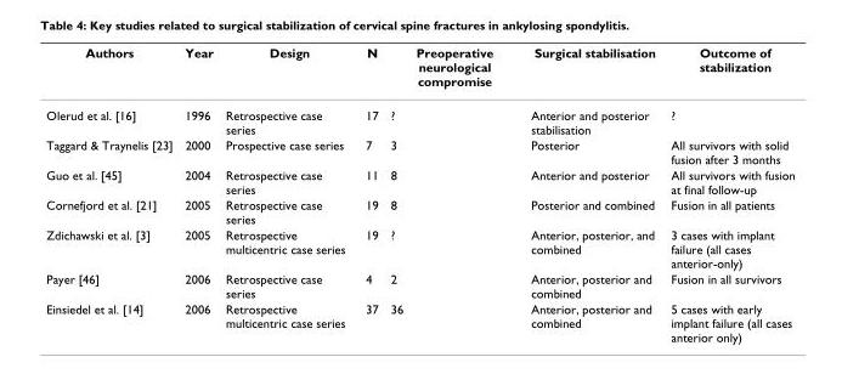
<table><thead><tr><td>Authors</td><td>Year</td><td>Design</td><td>N</td><td>Preoperative neurological compromise</td><td>Surgical stabilisation</td><td>Outcome of stabilization</td></tr></thead><tbody><tr><td>Olerud et al. [16]</td><td>1996</td><td>Retrospective case series</td><td>17</td><td>?</td><td>Anterior and posterior stabilisation</td><td>?</td></tr><tr><td>Taggard &amp; Traynelis [23]</td><td>2000</td><td>Prospective case series</td><td>7</td><td>3</td><td>Posterior</td><td>All survivors with solid fusion after 3 months</td></tr><tr><td>Guo et al. [45]</td><td>2004</td><td>Retrospective case series</td><td>11</td><td>8</td><td>Anterior and posterior</td><td>All survivors with fusion at final follow-up</td></tr><tr><td>Cornefjord et al. [21]</td><td>2005</td><td>Retrospective case series</td><td>19</td><td>8</td><td>Posterior and combined</td><td>Fusion in all patients</td></tr><tr><td>Zdichawski et al. [3]</td><td>2005</td><td>Retrospective multicentric case series</td><td>19</td><td>?</td><td>Anterior, posterior, and combined</td><td>3 cases with implant failure (all cases anterior-only)</td></tr><tr><td>Payer [46]</td><td>2006</td><td>Retrospective case series</td><td>4</td><td>2</td><td>Anterior, posterior and combined</td><td>Fusion in all survivors</td></tr><tr><td>Einsiedel et al. [14]</td><td>2006</td><td>Retrospective multicentric case series</td><td>37</td><td>36</td><td>Anterior, posterior and combined</td><td>5 cases with early implant failure (all cases anterior only)</td></tr></tbody></table>